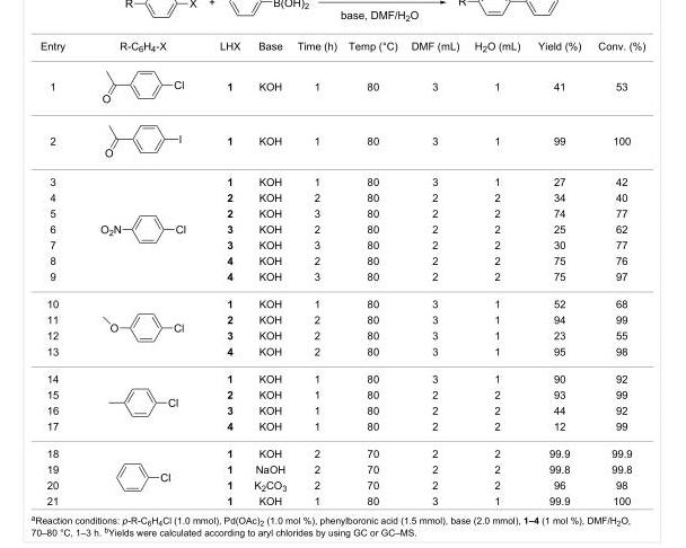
<table><tbody><tr><td>Entry</td><td>R-C<sub>6</sub>H<sub>4</sub>-X</td><td>LHX</td><td>Base</td><td>Time (h)</td><td>Temp (°C)</td><td>DMF (mL)</td><td>H<sub>2</sub>O (mL)</td><td>Yield (%)</td><td>Conv. (%)</td></tr><tr><td>1</td><td></td><td>1</td><td>KOH</td><td>1</td><td>80</td><td>3</td><td>1</td><td>41</td><td>53</td></tr><tr><td>2</td><td></td><td>1</td><td>KOH</td><td>1</td><td>80</td><td>3</td><td>1</td><td>99</td><td>100</td></tr><tr><td>3</td><td rowspan="7"></td><td>1</td><td>KOH</td><td>1</td><td>80</td><td>3</td><td>1</td><td>27</td><td>42</td></tr><tr><td>4</td><td>2</td><td>KOH</td><td>2</td><td>80</td><td>2</td><td>2</td><td>34</td><td>40</td></tr><tr><td>5</td><td>2</td><td>KOH</td><td>3</td><td>80</td><td>2</td><td>2</td><td>74</td><td>77</td></tr><tr><td>6</td><td>3</td><td>KOH</td><td>2</td><td>80</td><td>2</td><td>2</td><td>25</td><td>62</td></tr><tr><td>7</td><td>3</td><td>KOH</td><td>3</td><td>80</td><td>2</td><td>2</td><td>30</td><td>77</td></tr><tr><td>8</td><td>4</td><td>KOH</td><td>2</td><td>80</td><td>2</td><td>2</td><td>75</td><td>76</td></tr><tr><td>9</td><td>4</td><td>KOH</td><td>3</td><td>80</td><td>2</td><td>2</td><td>75</td><td>97</td></tr><tr><td>10</td><td rowspan="4"></td><td>1</td><td>KOH</td><td>1</td><td>80</td><td>3</td><td>1</td><td>52</td><td>68</td></tr><tr><td>11</td><td>2</td><td>KOH</td><td>2</td><td>80</td><td>3</td><td>1</td><td>94</td><td>99</td></tr><tr><td>12</td><td>3</td><td>KOH</td><td>2</td><td>80</td><td>3</td><td>1</td><td>23</td><td>55</td></tr><tr><td>13</td><td>4</td><td>KOH</td><td>2</td><td>80</td><td>3</td><td>1</td><td>95</td><td>98</td></tr><tr><td>14</td><td rowspan="4"></td><td>1</td><td>KOH</td><td>1</td><td>80</td><td>3</td><td>1</td><td>90</td><td>92</td></tr><tr><td>15</td><td>2</td><td>KOH</td><td>1</td><td>80</td><td>2</td><td>2</td><td>93</td><td>99</td></tr><tr><td>16</td><td>3</td><td>KOH</td><td>1</td><td>80</td><td>2</td><td>2</td><td>44</td><td>92</td></tr><tr><td>17</td><td>4</td><td>KOH</td><td>1</td><td>80</td><td>2</td><td>2</td><td>12</td><td>99</td></tr><tr><td>18</td><td rowspan="4"></td><td>1</td><td>KOH</td><td>2</td><td>70</td><td>2</td><td>2</td><td>99.9</td><td>99.9</td></tr><tr><td>19</td><td>1</td><td>NaOH</td><td>2</td><td>70</td><td>2</td><td>2</td><td>99.8</td><td>99.8</td></tr><tr><td>20</td><td>1</td><td>K<sub>2</sub>CO<sub>3</sub></td><td>2</td><td>70</td><td>2</td><td>2</td><td>96</td><td>98</td></tr><tr><td>21</td><td>1</td><td>KOH</td><td>1</td><td>80</td><td>3</td><td>1</td><td>99.9</td><td>100</td></tr></tbody></table>